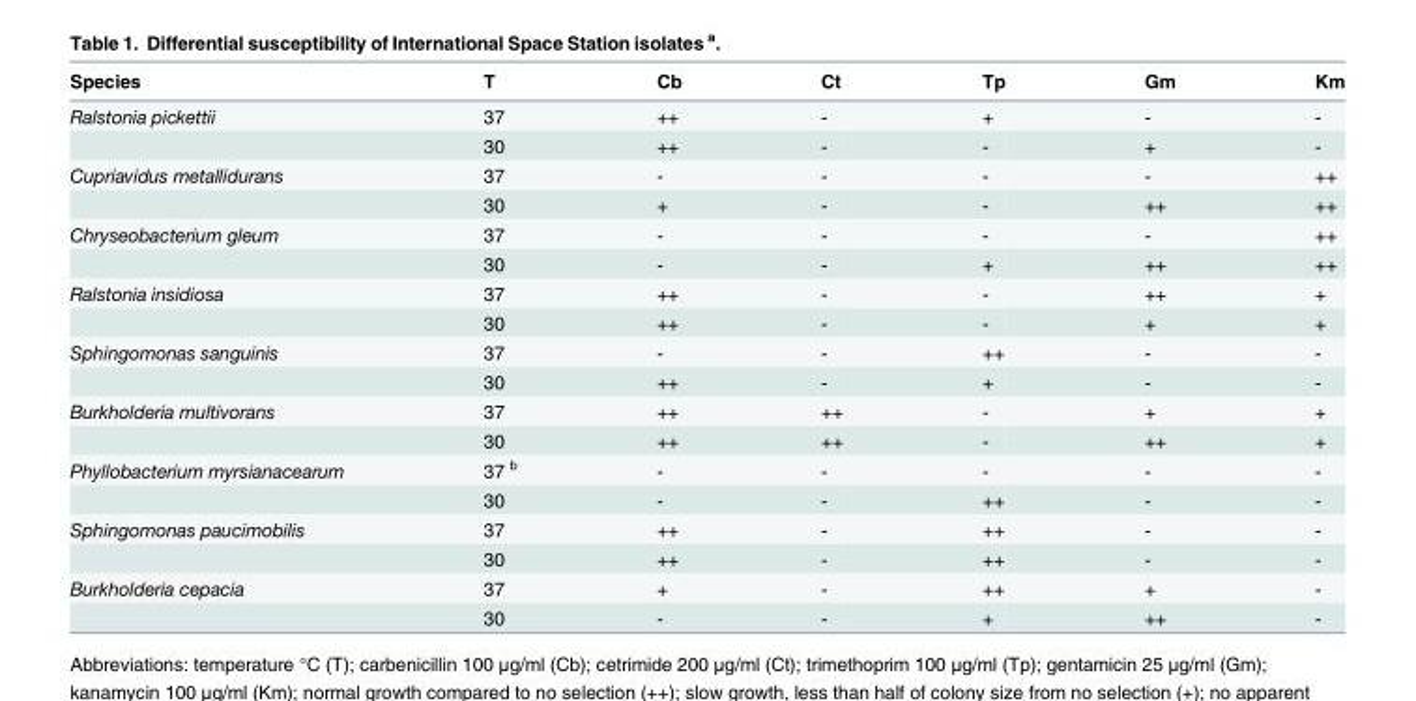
<table><thead><tr><td>Species</td><td>T</td><td>Cb</td><td>Ct</td><td>Tp</td><td>Gm</td><td>Km</td></tr></thead><tbody><tr><td rowspan="2">Ralstonia pickettii</td><td>37</td><td>++</td><td>-</td><td>+</td><td>-</td><td>-</td></tr><tr><td>30</td><td>++</td><td>-</td><td>-</td><td>+</td><td>-</td></tr><tr><td rowspan="2">Cupriavidus metallidurans</td><td>37</td><td>-</td><td>-</td><td>-</td><td>-</td><td>++</td></tr><tr><td>30</td><td>+</td><td>-</td><td>-</td><td>++</td><td>++</td></tr><tr><td rowspan="2">Chryseobacterium gleum</td><td>37</td><td>-</td><td>-</td><td>-</td><td>-</td><td>++</td></tr><tr><td>30</td><td>-</td><td>-</td><td>+</td><td>++</td><td>++</td></tr><tr><td rowspan="2">Ralstonia insidiosa</td><td>37</td><td>++</td><td>-</td><td>-</td><td>++</td><td>+</td></tr><tr><td>30</td><td>++</td><td>-</td><td>-</td><td>+</td><td>+</td></tr><tr><td rowspan="2">Sphingomonas sanguinis</td><td>37</td><td>-</td><td>-</td><td>++</td><td>-</td><td>-</td></tr><tr><td>30</td><td>++</td><td>-</td><td>+</td><td>-</td><td>-</td></tr><tr><td rowspan="2">Burkholderia multivorans</td><td>37</td><td>++</td><td>++</td><td>-</td><td>+</td><td>+</td></tr><tr><td>30</td><td>++</td><td>++</td><td>-</td><td>++</td><td>+</td></tr><tr><td rowspan="2">Phyllobacterium myrsianacearum</td><td>37 <sup>b</sup></td><td>-</td><td>-</td><td>-</td><td>-</td><td>-</td></tr><tr><td>30</td><td>-</td><td>-</td><td>++</td><td>-</td><td>-</td></tr><tr><td rowspan="2">Sphingomonas paucimobilis</td><td>37</td><td>++</td><td>-</td><td>++</td><td>-</td><td>-</td></tr><tr><td>30</td><td>++</td><td>-</td><td>++</td><td>-</td><td>-</td></tr><tr><td rowspan="2">Burkholderia cepacia</td><td>37</td><td>+</td><td>-</td><td>++</td><td>+</td><td>-</td></tr><tr><td>30</td><td>-</td><td>-</td><td>+</td><td>++</td><td>-</td></tr></tbody></table>